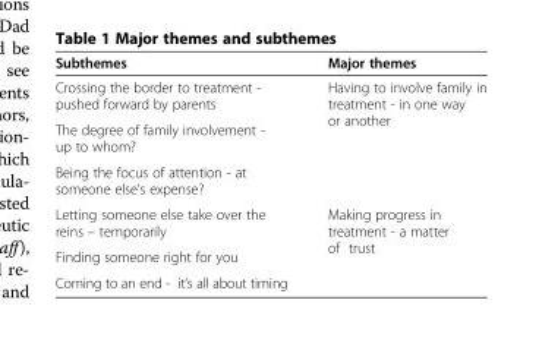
<table><thead><tr><td>Subthemes</td><td>Major themes</td></tr></thead><tbody><tr><td>Crossing the border to treatment - pushed forward by parents</td><td rowspan="3">Having to involve family in treatment - in one way or another</td></tr><tr><td>The degree of family involvement - up to whom?</td></tr><tr><td>Being the focus of attention - at someone else’s expense?</td></tr><tr><td>Letting someone else take over the reins – temporarily</td><td rowspan="3">Making progress in treatment - a matter of trust</td></tr><tr><td>Finding someone right for you</td></tr><tr><td>Coming to an end - it’s all about timing</td></tr></tbody></table>